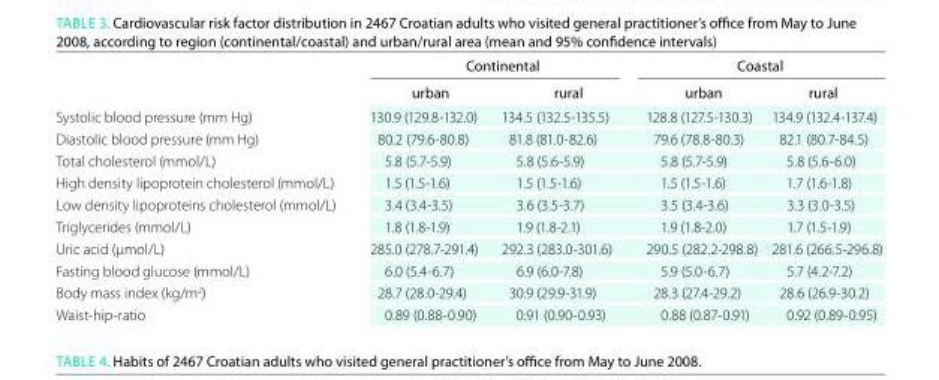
<table><thead><tr><td rowspan="2"></td><td colspan="2">Continental</td><td colspan="2">Coastal</td></tr><tr><td>urban</td><td>rural</td><td>urban</td><td>rural</td></tr></thead><tbody><tr><td>Systolic blood pressure (mm Hg)</td><td>130.9 (129.8-132.0)</td><td>134.5 (132.5-135.5)</td><td>128.8 (127.5-130.3)</td><td>134.9 (132.4-137.4)</td></tr><tr><td>Diastolic blood pressure (mm Hg)</td><td>80.2 (79.6-80.8)</td><td>81.8 (81.0-82.6)</td><td>79.6 (78.8-80.3)</td><td>82.1 (80.7-84.5)</td></tr><tr><td>Total cholesterol (mmol/L)</td><td>5.8 (5.7-5.9)</td><td>5.8 (5.6-5.9)</td><td>5.8 (5.7-5.9)</td><td>5.8 (5.6-6.0)</td></tr><tr><td>High density lipoprotein cholesterol (mmol/L)</td><td>1.5 (1.5-1.6)</td><td>1.5 (1.5-1.6)</td><td>1.5 (1.5-1.6)</td><td>1.7 (1.6-1.8)</td></tr><tr><td>Low density lipoproteins cholesterol (mmol/L)</td><td>3.4 (3.4-3.5)</td><td>3.6 (3.5-3.7)</td><td>3.5 (3.4-3.6)</td><td>3.3 (3.0-3.5)</td></tr><tr><td>Triglycerides (mmol/L)</td><td>1.8 (1.8-1.9)</td><td>1.9 (1.8-2.1)</td><td>1.9 (1.8-2.0)</td><td>1.7 (1.5-1.9)</td></tr><tr><td>Uric acid (μmol/L)</td><td>285.0 (278.7-291.4)</td><td>292.3 (283.0-301.6)</td><td>290.5 (282.2-298.8)</td><td>281.6 (266.5-296.8)</td></tr><tr><td>Fasting blood glucose (mmol/L)</td><td>6.0 (5.4-6.7)</td><td>6.9 (6.0-7.8)</td><td>5.9 (5.0-6.7)</td><td>5.7 (4.2-7.2)</td></tr><tr><td>Body mass index (kg/m<sup>2</sup>)</td><td>28.7 (28.0-29.4)</td><td>30.9 (29.9-31.9)</td><td>28.3 (27.4-29.2)</td><td>28.6 (26.9-30.2)</td></tr><tr><td>Waist-hip-ratio</td><td>0.89 (0.88-0.90)</td><td>0.91 (0.90-0.93)</td><td>0.88 (0.87-0.91)</td><td>0.92 (0.89-0.95)</td></tr></tbody></table>